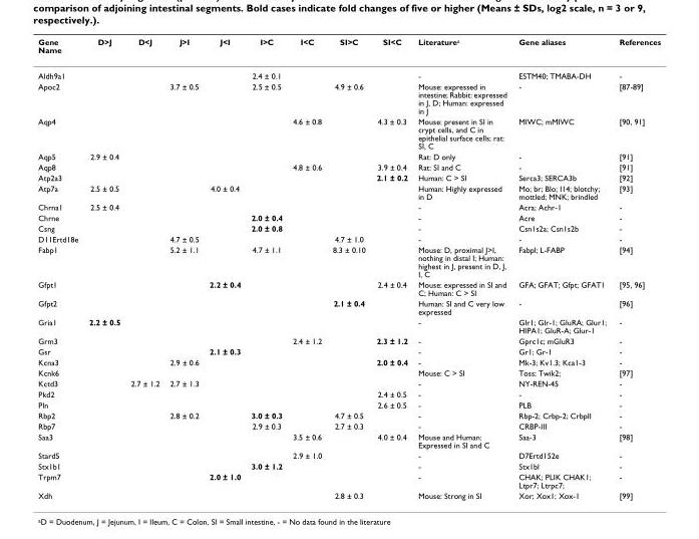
<table><thead><tr><td>Gene Name</td><td>D&gt;J</td><td>D&lt;J</td><td>J&gt;I</td><td>J&lt;I</td><td>I&gt;C</td><td>I&lt;C</td><td>SI&gt;C</td><td>SI&lt;C</td><td>Literature<sup>a</sup></td><td>Gene aliases</td><td>References</td></tr></thead><tbody><tr><td>Aldh9a1</td><td></td><td></td><td></td><td></td><td>2.4 ± 0.1</td><td></td><td></td><td></td><td>-</td><td>ESTM40; TMABA-DH</td><td>-</td></tr><tr><td>Apoc2</td><td></td><td></td><td>3.7 ± 0.5</td><td></td><td>2.5 ± 0.5</td><td></td><td>4.9 ± 0.6</td><td></td><td>Mouse: expressed in intestine; Rabbit: expressed in J, D; Human: expressed in J</td><td>-</td><td>[87-89]</td></tr><tr><td>Aqp4</td><td></td><td></td><td></td><td></td><td></td><td>4.6 ± 0.8</td><td></td><td>4.3 ± 0.3</td><td>Mouse: present in SI in crypt cells, and C in epithelial surface cells; rat: SI, C</td><td>MIWC; mMIWC</td><td>[90, 91]</td></tr><tr><td>Aqp5</td><td>2.9 ± 0.4</td><td></td><td></td><td></td><td></td><td></td><td></td><td></td><td>Rat: D only</td><td>-</td><td>[91]</td></tr><tr><td>Aqp8</td><td></td><td></td><td></td><td></td><td></td><td>4.8 ± 0.6</td><td></td><td>3.9 ± 0.4</td><td>Rat: SI and C</td><td>-</td><td>[91]</td></tr><tr><td>Atp2a3</td><td></td><td></td><td></td><td></td><td></td><td></td><td></td><td>2.1 ± 0.2</td><td>Human: C &gt; SI</td><td>Serca3; SERCA3b</td><td>[92]</td></tr><tr><td>Atp7a</td><td>2.5 ± 0.5</td><td></td><td></td><td>4.0 ± 0.4</td><td></td><td></td><td></td><td></td><td>Human: Highly expressed in D</td><td>Mo; br; Blo; I14; blotchy; mottled; MNK; brindled</td><td>[93]</td></tr><tr><td>Chrna1</td><td>2.5 ± 0.4</td><td></td><td></td><td></td><td></td><td></td><td></td><td></td><td>-</td><td>Acra; Achr-1</td><td>-</td></tr><tr><td>Chrne</td><td></td><td></td><td></td><td></td><td>2.0 ± 0.4</td><td></td><td></td><td></td><td>-</td><td>Acre</td><td>-</td></tr><tr><td>Csng</td><td></td><td></td><td></td><td></td><td>2.0 ± 0.8</td><td></td><td></td><td></td><td>-</td><td>Csn1s2a; Csn1s2b</td><td>-</td></tr><tr><td>D11Ertd18e</td><td></td><td></td><td>4.7 ± 0.5</td><td></td><td></td><td></td><td>4.7 ± 1.0</td><td></td><td>-</td><td>-</td><td>-</td></tr><tr><td>Fabp1</td><td></td><td></td><td>5.2 ± 1.1</td><td></td><td>4.7 ± 1.1</td><td></td><td>8.3 ± 0.10</td><td></td><td>Mouse: D, proximal J&gt;I, nothing in distal I; Human: highest in J, present in D, J, I, C</td><td>Fabpl; L-FABP</td><td>[94]</td></tr><tr><td>Gfpt1</td><td></td><td></td><td></td><td>2.2 ± 0.4</td><td></td><td></td><td></td><td>2.4 ± 0.4</td><td>Mouse: expressed in SI and C; Human: C &gt; SI</td><td>GFA; GFAT; Gfpt; GFAT1</td><td>[95, 96]</td></tr><tr><td>Gfpt2</td><td></td><td></td><td></td><td></td><td></td><td></td><td>2.1 ± 0.4</td><td></td><td>Human: SI and C very low expressed</td><td>-</td><td>[96]</td></tr><tr><td>Gria1</td><td>2.2 ± 0.5</td><td></td><td></td><td></td><td></td><td></td><td></td><td></td><td>-</td><td>Glr1; Glr-1; GluRA; Glur1; HIPA1; GluR-A; Glur-1</td><td>-</td></tr><tr><td>Grm3</td><td></td><td></td><td></td><td></td><td></td><td>2.4 ± 1.2</td><td></td><td>2.3 ± 1.2</td><td>-</td><td>Gprc1c; mGluR3</td><td>-</td></tr><tr><td>Gsr</td><td></td><td></td><td></td><td>2.1 ± 0.3</td><td></td><td></td><td></td><td></td><td>-</td><td>Gr1; Gr-1</td><td>-</td></tr><tr><td>Kcna3</td><td></td><td></td><td>2.9 ± 0.6</td><td></td><td></td><td></td><td></td><td>2.0 ± 0.4</td><td>-</td><td>Mk-3; Kv1.3; Kca1-3</td><td>-</td></tr><tr><td>Kcnk6</td><td></td><td></td><td></td><td></td><td></td><td></td><td></td><td></td><td>Mouse: C &gt; SI</td><td>Toss; Twik2;</td><td>[97]</td></tr><tr><td>Kctd3</td><td></td><td>2.7 ± 1.2</td><td>2.7 ± 1.3</td><td></td><td></td><td></td><td></td><td></td><td>-</td><td>NY-REN-45</td><td>-</td></tr><tr><td>Pkd2</td><td></td><td></td><td></td><td></td><td></td><td></td><td></td><td>2.4 ± 0.5</td><td>-</td><td>-</td><td>-</td></tr><tr><td>Pln</td><td></td><td></td><td></td><td></td><td></td><td></td><td></td><td>2.6 ± 0.5</td><td>-</td><td>PLB</td><td>-</td></tr><tr><td>Rbp2</td><td></td><td></td><td>2.8 ± 0.2</td><td></td><td>3.0 ± 0.3</td><td></td><td>4.7 ± 0.5</td><td></td><td>-</td><td>Rbp-2; Crbp-2; CrbpII</td><td>-</td></tr><tr><td>Rbp7</td><td></td><td></td><td></td><td></td><td>2.9 ± 0.3</td><td></td><td>2.7 ± 0.3</td><td></td><td>-</td><td>CRBP-III</td><td>-</td></tr><tr><td>Saa3</td><td></td><td></td><td></td><td></td><td></td><td>3.5 ± 0.6</td><td></td><td>4.0 ± 0.4</td><td>Mouse and Human: Expressed in SI and C</td><td>Saa-3</td><td>[98]</td></tr><tr><td>Stard5</td><td></td><td></td><td></td><td></td><td></td><td>2.9 ± 1.0</td><td></td><td></td><td>-</td><td>D7Ertd152e</td><td>-</td></tr><tr><td>Stx1b1</td><td></td><td></td><td></td><td></td><td>3.0 ± 1.2</td><td></td><td></td><td></td><td>-</td><td>Stx1bl</td><td>-</td></tr><tr><td>Trpm7</td><td></td><td></td><td></td><td>2.0 ± 1.0</td><td></td><td></td><td></td><td></td><td>-</td><td>CHAK; PLIK CHAK1; Ltpr7; Ltrpc7;</td><td>-</td></tr><tr><td>Xdh</td><td></td><td></td><td></td><td></td><td></td><td></td><td>2.8 ± 0.3</td><td></td><td>Mouse: Strong in SI</td><td>Xor; Xox1; Xox-1</td><td>[99]</td></tr></tbody></table>